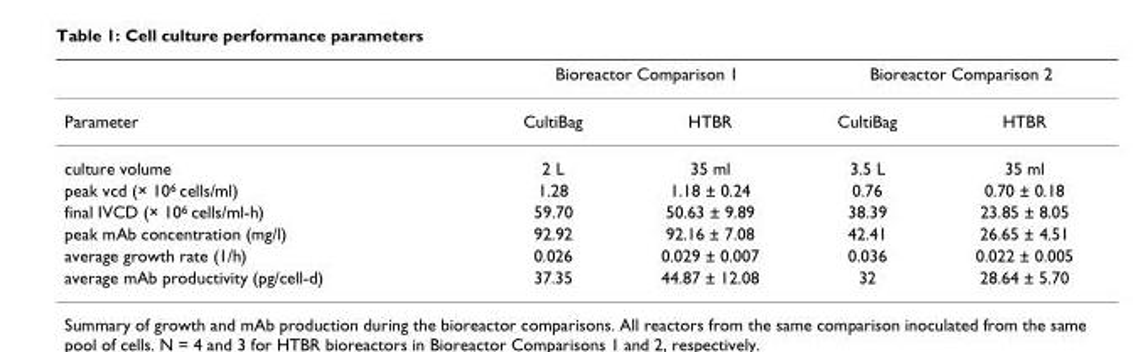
<table><thead><tr><td rowspan="2">Parameter</td><td colspan="2">Bioreactor Comparison 1</td><td colspan="2">Bioreactor Comparison 2</td></tr><tr><td>CultiBag</td><td>HTBR</td><td>CultiBag</td><td>HTBR</td></tr></thead><tbody><tr><td>culture volume</td><td>2 L</td><td>35 ml</td><td>3.5 L</td><td>35 ml</td></tr><tr><td>peak vcd (× 10<sup>6</sup> cells/ml)</td><td>1.28</td><td>1.18 ± 0.24</td><td>0.76</td><td>0.70 ± 0.18</td></tr><tr><td>final IVCD (× 10<sup>6</sup> cells/ml-h)</td><td>59.70</td><td>50.63 ± 9.89</td><td>38.39</td><td>23.85 ± 8.05</td></tr><tr><td>peak mAb concentration (mg/l)</td><td>92.92</td><td>92.16 ± 7.08</td><td>42.41</td><td>26.65 ± 4.51</td></tr><tr><td>average growth rate (1/h)</td><td>0.026</td><td>0.029 ± 0.007</td><td>0.036</td><td>0.022 ± 0.005</td></tr><tr><td>average mAb productivity (pg/cell-d)</td><td>37.35</td><td>44.87 ± 12.08</td><td>32</td><td>28.64 ± 5.70</td></tr></tbody></table>